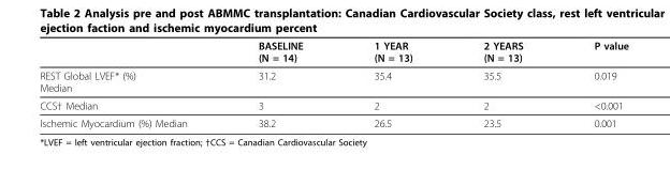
<table><thead><tr><td></td><td>BASELINE (N = 14)</td><td>1 YEAR (N = 13)</td><td>2 YEARS (N = 13)</td><td>P value</td></tr></thead><tbody><tr><td>REST Global LVEF* (%) Median</td><td>31.2</td><td>35.4</td><td>35.5</td><td>0.019</td></tr><tr><td>CCS† Median</td><td>3</td><td>2</td><td>2</td><td>&lt;0.001</td></tr><tr><td>Ischemic Myocardium (%) Median</td><td>38.2</td><td>26.5</td><td>23.5</td><td>0.001</td></tr></tbody></table>